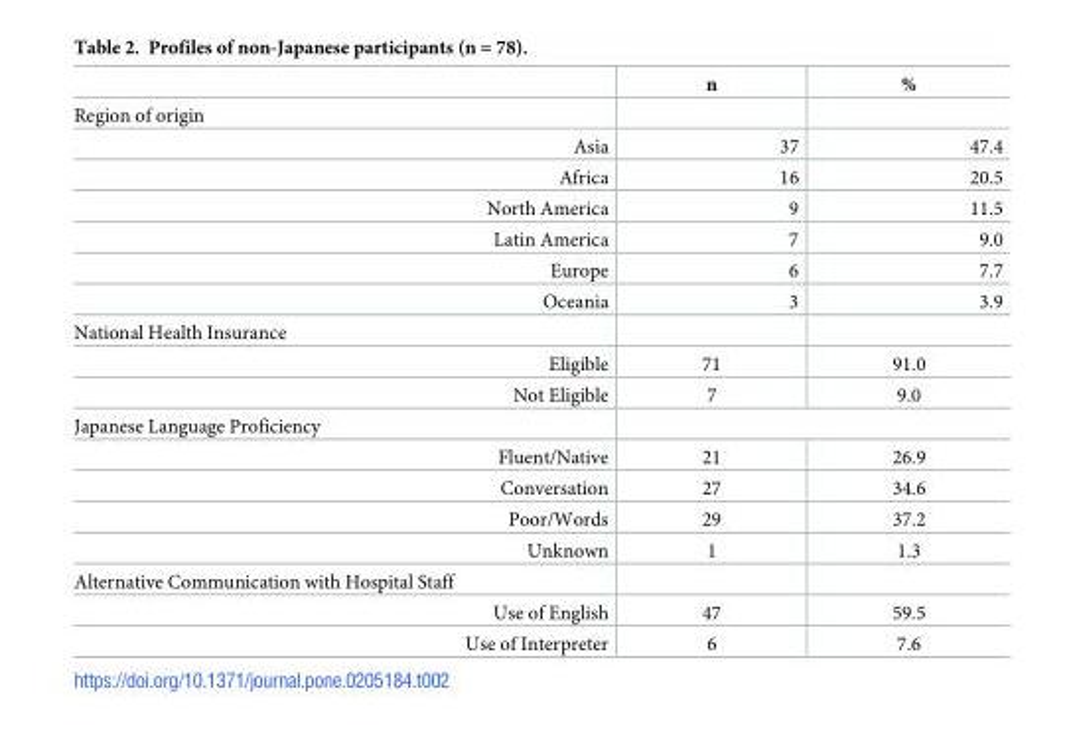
<table><thead><tr><td></td><td>n</td><td>%</td></tr></thead><tbody><tr><td colspan="3">Region of origin</td></tr><tr><td>Asia</td><td>37</td><td>47.4</td></tr><tr><td>Africa</td><td>16</td><td>20.5</td></tr><tr><td>North America</td><td>9</td><td>11.5</td></tr><tr><td>Latin America</td><td>7</td><td>9.0</td></tr><tr><td>Europe</td><td>6</td><td>7.7</td></tr><tr><td>Oceania</td><td>3</td><td>3.9</td></tr><tr><td colspan="3">National Health Insurance</td></tr><tr><td>Eligible</td><td>71</td><td>91.0</td></tr><tr><td>Not Eligible</td><td>7</td><td>9.0</td></tr><tr><td colspan="3">Japanese Language Proficiency</td></tr><tr><td>Fluent/Native</td><td>21</td><td>26.9</td></tr><tr><td>Conversation</td><td>27</td><td>34.6</td></tr><tr><td>Poor/Words</td><td>29</td><td>37.2</td></tr><tr><td>Unknown</td><td>1</td><td>1.3</td></tr><tr><td colspan="3">Alternative Communication with Hospital Staff</td></tr><tr><td>Use of English</td><td>47</td><td>59.5</td></tr><tr><td>Use of Interpreter</td><td>6</td><td>7.6</td></tr></tbody></table>